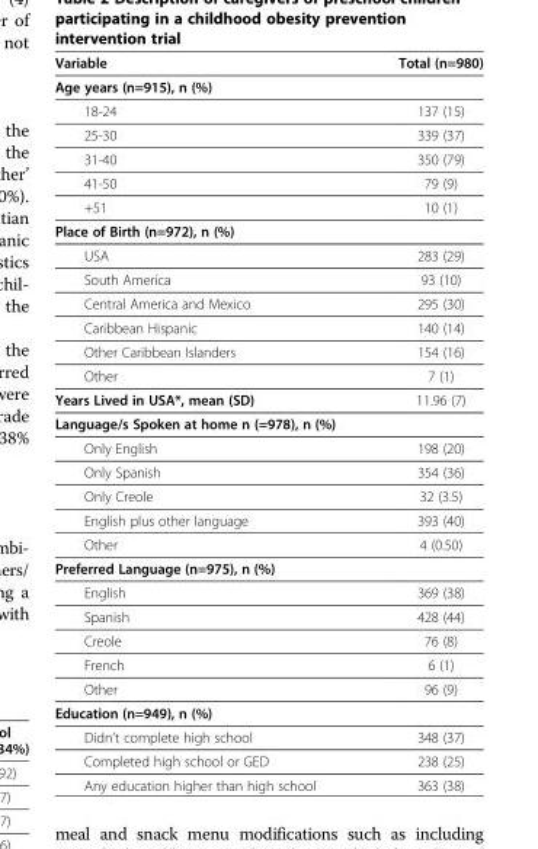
<table><thead><tr><td>Variable</td><td>Total (n=980)</td></tr></thead><tbody><tr><td colspan="2">Age years (n=915), n (%)</td></tr><tr><td>18-24</td><td>137 (15)</td></tr><tr><td>25-30</td><td>339 (37)</td></tr><tr><td>31-40</td><td>350 (79)</td></tr><tr><td>41-50</td><td>79 (9)</td></tr><tr><td>+51</td><td>10 (1)</td></tr><tr><td colspan="2">Place of Birth (n=972), n (%)</td></tr><tr><td>USA</td><td>283 (29)</td></tr><tr><td>South America</td><td>93 (10)</td></tr><tr><td>Central America and Mexico</td><td>295 (30)</td></tr><tr><td>Caribbean Hispanic</td><td>140 (14)</td></tr><tr><td>Other Caribbean Islanders</td><td>154 (16)</td></tr><tr><td>Other</td><td>7 (1)</td></tr><tr><td>Years Lived in USA*, mean (SD)</td><td>11.96 (7)</td></tr><tr><td colspan="2">Language/s Spoken at home n (=978), n (%)</td></tr><tr><td>Only English</td><td>198 (20)</td></tr><tr><td>Only Spanish</td><td>354 (36)</td></tr><tr><td>Only Creole</td><td>32 (3.5)</td></tr><tr><td>English plus other language</td><td>393 (40)</td></tr><tr><td>Other</td><td>4 (0.50)</td></tr><tr><td colspan="2">Preferred Language (n=975), n (%)</td></tr><tr><td>English</td><td>369 (38)</td></tr><tr><td>Spanish</td><td>428 (44)</td></tr><tr><td>Creole</td><td>76 (8)</td></tr><tr><td>French</td><td>6 (1)</td></tr><tr><td>Other</td><td>96 (9)</td></tr><tr><td colspan="2">Education (n=949), n (%)</td></tr><tr><td>Didn’t complete high school</td><td>348 (37)</td></tr><tr><td>Completed high school or GED</td><td>238 (25)</td></tr><tr><td>Any education higher than high school</td><td>363 (38)</td></tr></tbody></table>